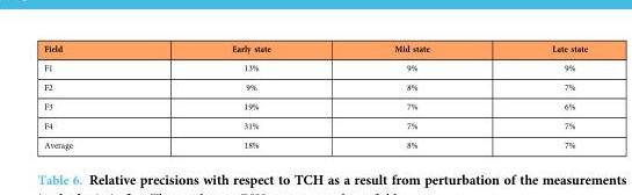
<table><thead><tr><td>Field</td><td>Early state</td><td>Mid state</td><td>Late state</td></tr></thead><tbody><tr><td>F1</td><td>13%</td><td>9%</td><td>9%</td></tr><tr><td>F2</td><td>9%</td><td>8%</td><td>7%</td></tr><tr><td>F3</td><td>19%</td><td>7%</td><td>6%</td></tr><tr><td>F4</td><td>31%</td><td>7%</td><td>7%</td></tr><tr><td>Average</td><td>18%</td><td>8%</td><td>7%</td></tr></tbody></table>